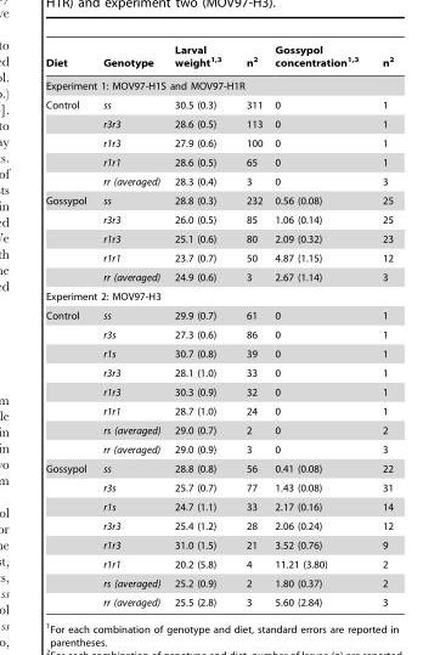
<table><thead><tr><td>Diet</td><td>Genotype</td><td>Larval weight<sup>1,3</sup></td><td>n<sup>2</sup></td><td>Gossypol concentration<sup>1,3</sup></td><td>n<sup>2</sup></td></tr></thead><tbody><tr><td colspan="6">Experiment 1: MOV97-H1S and MOV97-H1R</td></tr><tr><td rowspan="5">Control</td><td>ss</td><td>30.5 (0.3)</td><td>311</td><td>0</td><td>1</td></tr><tr><td>r3r3</td><td>28.6 (0.5)</td><td>113</td><td>0</td><td>1</td></tr><tr><td>r1r3</td><td>27.9 (0.6)</td><td>100</td><td>0</td><td>1</td></tr><tr><td>r1r1</td><td>28.6 (0.5)</td><td>65</td><td>0</td><td>1</td></tr><tr><td>rr (averaged)</td><td>28.3 (0.4)</td><td>3</td><td>0</td><td>3</td></tr><tr><td rowspan="5">Gossypol</td><td>ss</td><td>28.8 (0.3)</td><td>232</td><td>0.56 (0.08)</td><td>25</td></tr><tr><td>r3r3</td><td>26.0 (0.5)</td><td>85</td><td>1.06 (0.14)</td><td>25</td></tr><tr><td>r1r3</td><td>25.1 (0.6)</td><td>80</td><td>2.09 (0.32)</td><td>23</td></tr><tr><td>r1r1</td><td>23.7 (0.7)</td><td>50</td><td>4.87 (1.15)</td><td>12</td></tr><tr><td>rr (averaged)</td><td>24.9 (0.6)</td><td>3</td><td>2.67 (1.14)</td><td>3</td></tr><tr><td colspan="6">Experiment 2: MOV97-H3</td></tr><tr><td rowspan="8">Control</td><td>ss</td><td>29.9 (0.7)</td><td>61</td><td>0</td><td>1</td></tr><tr><td>r3s</td><td>27.3 (0.6)</td><td>86</td><td>0</td><td>1</td></tr><tr><td>r1s</td><td>30.7 (0.8)</td><td>39</td><td>0</td><td>1</td></tr><tr><td>r3r3</td><td>28.1 (1.0)</td><td>33</td><td>0</td><td>1</td></tr><tr><td>r1r3</td><td>30.3 (0.9)</td><td>32</td><td>0</td><td>1</td></tr><tr><td>r1r1</td><td>28.7 (1.0)</td><td>24</td><td>0</td><td>1</td></tr><tr><td>rs (averaged)</td><td>29.0 (0.7)</td><td>2</td><td>0</td><td>2</td></tr><tr><td>rr (averaged)</td><td>29.0 (0.9)</td><td>3</td><td>0</td><td>3</td></tr><tr><td rowspan="8">Gossypol</td><td>ss</td><td>28.8 (0.8)</td><td>56</td><td>0.41 (0.08)</td><td>22</td></tr><tr><td>r3s</td><td>25.7 (0.7)</td><td>77</td><td>1.43 (0.08)</td><td>31</td></tr><tr><td>r1s</td><td>24.7 (1.1)</td><td>33</td><td>2.17 (0.16)</td><td>14</td></tr><tr><td>r3r3</td><td>25.4 (1.2)</td><td>28</td><td>2.06 (0.24)</td><td>12</td></tr><tr><td>r1r3</td><td>31.0 (1.5)</td><td>21</td><td>3.52 (0.76)</td><td>9</td></tr><tr><td>r1r1</td><td>20.2 (5.8)</td><td>4</td><td>11.21 (3.80)</td><td>2</td></tr><tr><td>rs (averaged)</td><td>25.2 (0.9)</td><td>2</td><td>1.80 (0.37)</td><td>2</td></tr><tr><td>rr (averaged)</td><td>25.5 (2.8)</td><td>3</td><td>5.60 (2.84)</td><td>3</td></tr></tbody></table>